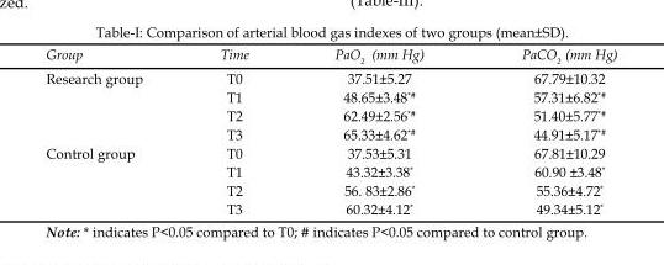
<table><thead><tr><td>Group</td><td>Time</td><td>PaO<sub>2</sub> (mm Hg)</td><td>PaCO<sub>2</sub> (mm Hg)</td></tr></thead><tbody><tr><td rowspan="4">Research group</td><td>T0</td><td>37.51±5.27</td><td>67.79±10.32</td></tr><tr><td>T1</td><td>48.65±3.48*<sup>#</sup></td><td>57.31±6.82*<sup>#</sup></td></tr><tr><td>T2</td><td>62.49±2.56*<sup>#</sup></td><td>51.40±5.77*<sup>#</sup></td></tr><tr><td>T3</td><td>65.33±4.62*<sup>#</sup></td><td>44.91±5.17*<sup>#</sup></td></tr><tr><td rowspan="4">Control group</td><td>T0</td><td>37.53±5.31</td><td>67.81±10.29</td></tr><tr><td>T1</td><td>43.32±3.38*</td><td>60.90 ±3.48*</td></tr><tr><td>T2</td><td>56. 83±2.86*</td><td>55.36±4.72*</td></tr><tr><td>T3</td><td>60.32±4.12*</td><td>49.34±5.12*</td></tr></tbody></table>